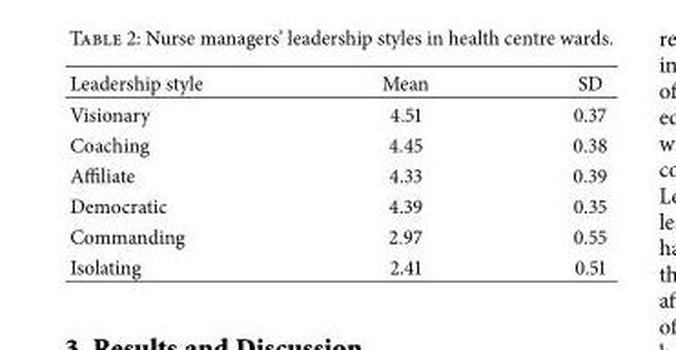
<table><thead><tr><td>Leadership style</td><td>Mean</td><td>SD</td></tr></thead><tbody><tr><td>Visionary</td><td>4.51</td><td>0.37</td></tr><tr><td>Coaching</td><td>4.45</td><td>0.38</td></tr><tr><td>Affiliate</td><td>4.33</td><td>0.39</td></tr><tr><td>Democratic</td><td>4.39</td><td>0.35</td></tr><tr><td>Commanding</td><td>2.97</td><td>0.55</td></tr><tr><td>Isolating</td><td>2.41</td><td>0.51</td></tr></tbody></table>